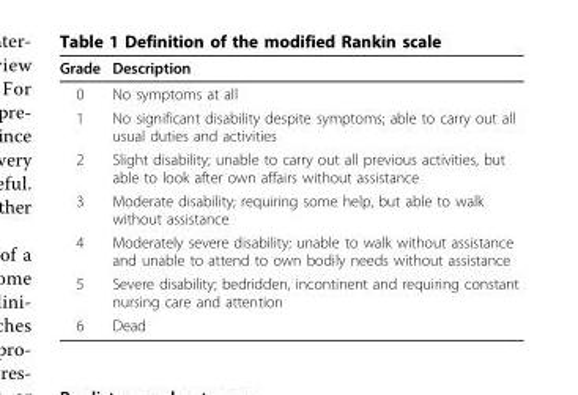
<table><thead><tr><td>Grade</td><td>Description</td></tr></thead><tbody><tr><td>0</td><td>No symptoms at all</td></tr><tr><td>1</td><td>No significant disability despite symptoms; able to carry out all usual duties and activities</td></tr><tr><td>2</td><td>Slight disability; unable to carry out all previous activities, but able to look after own affairs without assistance</td></tr><tr><td>3</td><td>Moderate disability; requiring some help, but able to walk without assistance</td></tr><tr><td>4</td><td>Moderately severe disability; unable to walk without assistance and unable to attend to own bodily needs without assistance</td></tr><tr><td>5</td><td>Severe disability; bedridden, incontinent and requiring constant nursing care and attention</td></tr><tr><td>6</td><td>Dead</td></tr></tbody></table>